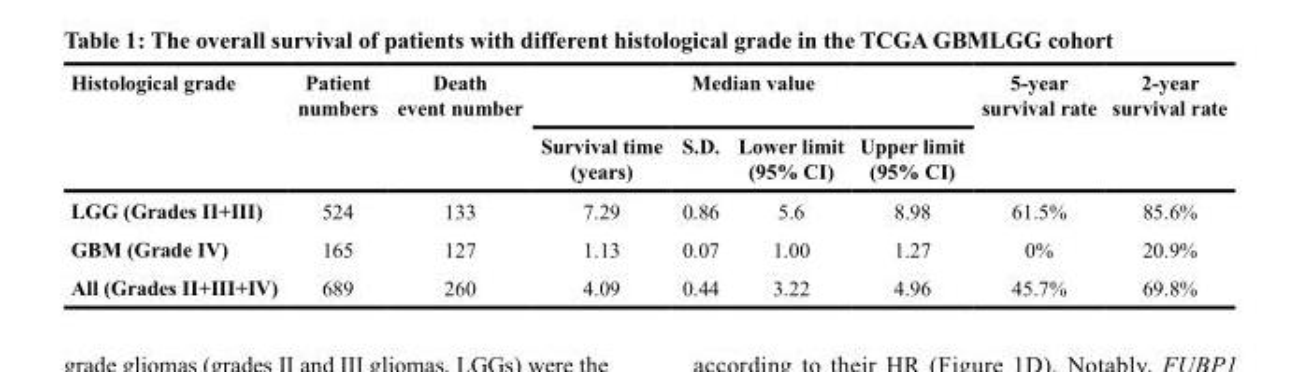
<table><thead><tr><td rowspan="2">Histological grade</td><td rowspan="2">Patient numbers</td><td rowspan="2">Death event number</td><td colspan="4">Median value</td><td rowspan="2">5-year survival rate</td><td rowspan="2">2-year survival rate</td></tr><tr><td>Survival time (years)</td><td>S.D.</td><td>Lower limit (95% CI)</td><td>Upper limit (95% CI)</td></tr></thead><tbody><tr><td>LGG (Grades II+III)</td><td>524</td><td>133</td><td>7.29</td><td>0.86</td><td>5.6</td><td>8.98</td><td>61.5%</td><td>85.6%</td></tr><tr><td>GBM (Grade IV)</td><td>165</td><td>127</td><td>1.13</td><td>0.07</td><td>1.00</td><td>1.27</td><td>0%</td><td>20.9%</td></tr><tr><td>All (Grades II+III+IV)</td><td>689</td><td>260</td><td>4.09</td><td>0.44</td><td>3.22</td><td>4.96</td><td>45.7%</td><td>69.8%</td></tr></tbody></table>